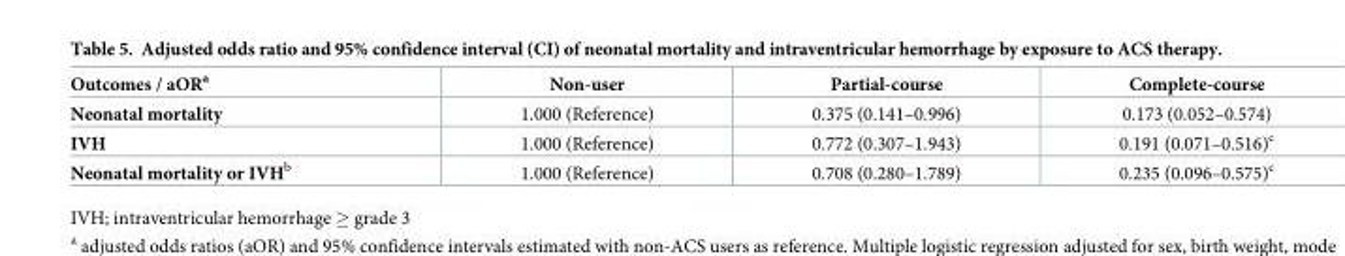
<table><thead><tr><td>Outcomes / aOR<sup>a</sup></td><td>Non-user</td><td>Partial-course</td><td>Complete-course</td></tr></thead><tbody><tr><td>Neonatal mortality</td><td>1.000 (Reference)</td><td>0.375 (0.141–0.996)</td><td>0.173 (0.052–0.574)</td></tr><tr><td>IVH</td><td>1.000 (Reference)</td><td>0.772 (0.307–1.943)</td><td>0.191 (0.071–0.516)<sup>c</sup></td></tr><tr><td>Neonatal mortality or IVH<sup>b</sup></td><td>1.000 (Reference)</td><td>0.708 (0.280–1.789)</td><td>0.235 (0.096–0.575)<sup>c</sup></td></tr></tbody></table>